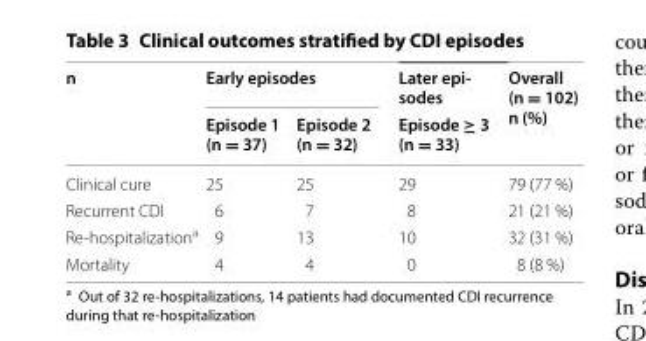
<table><thead><tr><td rowspan="2">n</td><td colspan="2">Early episodes</td><td rowspan="2">Later epi- sodes Episode ≥ 3 (n = 33)</td><td rowspan="2">Overall (n = 102) n (%)</td></tr><tr><td>Episode 1 (n = 37)</td><td>Episode 2 (n = 32)</td></tr></thead><tbody><tr><td>Clinical cure</td><td>25</td><td>25</td><td>29</td><td>79 (77 %)</td></tr><tr><td>Recurrent CDI</td><td>6</td><td>7</td><td>8</td><td>21 (21 %)</td></tr><tr><td>Re-hospitalization<sup>a</sup></td><td>9</td><td>13</td><td>10</td><td>32 (31 %)</td></tr><tr><td>Mortality</td><td>4</td><td>4</td><td>0</td><td>8 (8 %)</td></tr></tbody></table>